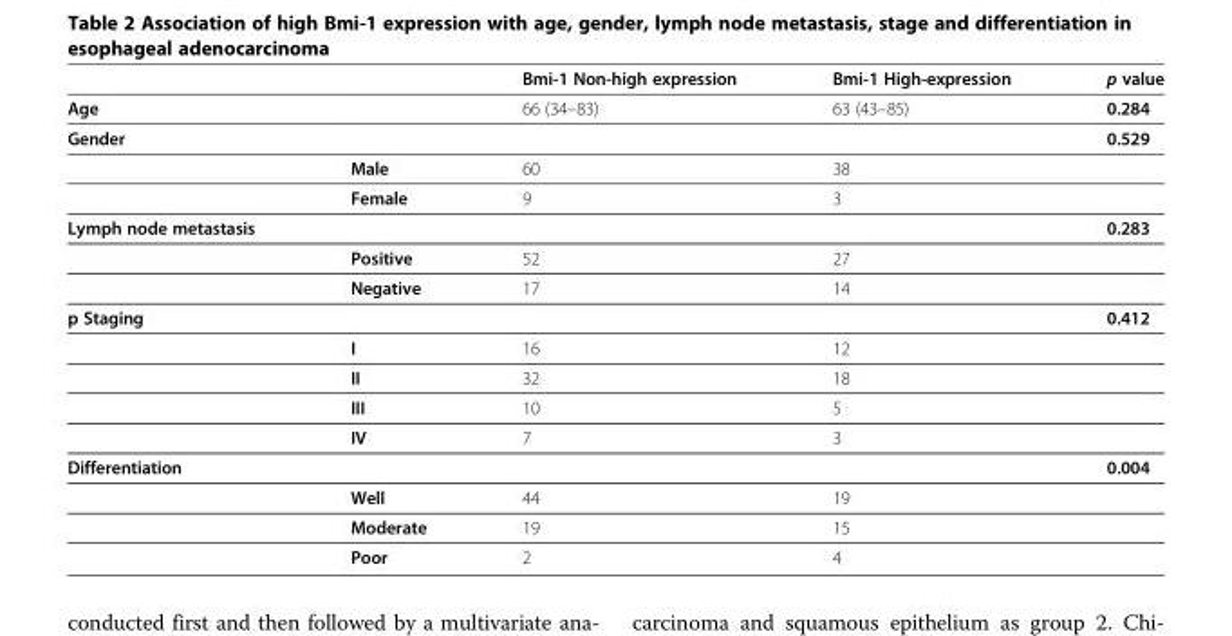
<table><thead><tr><td></td><td></td><td>Bmi-1 Non-high expression</td><td>Bmi-1 High-expression</td><td>p value</td></tr></thead><tbody><tr><td>Age</td><td></td><td>66 (34–83)</td><td>63 (43–85)</td><td>0.284</td></tr><tr><td rowspan="3">Gender</td><td></td><td></td><td></td><td>0.529</td></tr><tr><td>Male</td><td>60</td><td>38</td><td></td></tr><tr><td>Female</td><td>9</td><td>3</td><td></td></tr><tr><td rowspan="3">Lymph node metastasis</td><td></td><td></td><td></td><td>0.283</td></tr><tr><td>Positive</td><td>52</td><td>27</td><td></td></tr><tr><td>Negative</td><td>17</td><td>14</td><td></td></tr><tr><td rowspan="5">p Staging</td><td></td><td></td><td></td><td>0.412</td></tr><tr><td>I</td><td>16</td><td>12</td><td></td></tr><tr><td>II</td><td>32</td><td>18</td><td></td></tr><tr><td>III</td><td>10</td><td>5</td><td></td></tr><tr><td>IV</td><td>7</td><td>3</td><td></td></tr><tr><td rowspan="4">Differentiation</td><td></td><td></td><td></td><td>0.004</td></tr><tr><td>Well</td><td>44</td><td>19</td><td></td></tr><tr><td>Moderate</td><td>19</td><td>15</td><td></td></tr><tr><td>Poor</td><td>2</td><td>4</td><td></td></tr></tbody></table>